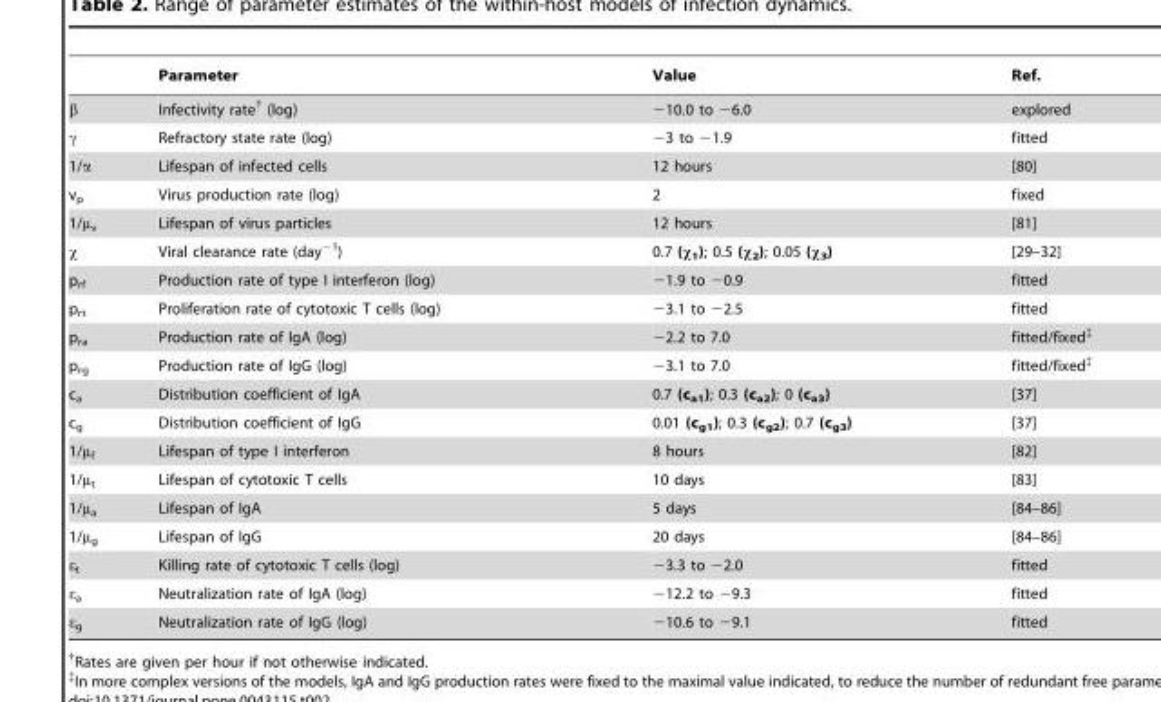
<table><thead><tr><td></td><td>Parameter</td><td>Value</td><td>Ref.</td></tr></thead><tbody><tr><td>β</td><td>Infectivity rate† (log)</td><td>−10.0 to −6.0</td><td>explored</td></tr><tr><td>γ</td><td>Refractory state rate (log)</td><td>−3 to −1.9</td><td>fitted</td></tr><tr><td>1/α</td><td>Lifespan of infected cells</td><td>12 hours</td><td>[80]</td></tr><tr><td>v<sub>p</sub></td><td>Virus production rate (log)</td><td>2</td><td>fixed</td></tr><tr><td>1/µ<sub>v</sub></td><td>Lifespan of virus particles</td><td>12 hours</td><td>[81]</td></tr><tr><td>κ</td><td>Viral clearance rate (day<sup>−1</sup>)</td><td>0.7 (χ<sub>1</sub>); 0.5 (χ<sub>2</sub>); 0.05 (χ<sub>3</sub>)</td><td>[29–32]</td></tr><tr><td>p<sub>rf</sub></td><td>Production rate of type I interferon (log)</td><td>−1.9 to −0.9</td><td>fitted</td></tr><tr><td>p<sub>rt</sub></td><td>Proliferation rate of cytotoxic T cells (log)</td><td>−3.1 to −2.5</td><td>fitted</td></tr><tr><td>p<sub>ra</sub></td><td>Production rate of IgA (log)</td><td>−2.2 to 7.0</td><td>fitted/fixed‡</td></tr><tr><td>p<sub>rg</sub></td><td>Production rate of IgG (log)</td><td>−3.1 to 7.0</td><td>fitted/fixed‡</td></tr><tr><td>c<sub>a</sub></td><td>Distribution coefficient of IgA</td><td>0.7 (c<sub>a1</sub>); 0.3 (c<sub>a2</sub>); 0 (c<sub>a3</sub>)</td><td>[37]</td></tr><tr><td>c<sub>g</sub></td><td>Distribution coefficient of IgG</td><td>0.01 (c<sub>g1</sub>); 0.3 (c<sub>g2</sub>); 0.7 (c<sub>g3</sub>)</td><td>[37]</td></tr><tr><td>1/µ<sub>f</sub></td><td>Lifespan of type I interferon</td><td>8 hours</td><td>[82]</td></tr><tr><td>1/µ<sub>t</sub></td><td>Lifespan of cytotoxic T cells</td><td>10 days</td><td>[83]</td></tr><tr><td>1/µ<sub>a</sub></td><td>Lifespan of IgA</td><td>5 days</td><td>[84–86]</td></tr><tr><td>1/µ<sub>g</sub></td><td>Lifespan of IgG</td><td>20 days</td><td>[84–86]</td></tr><tr><td>ε<sub>t</sub></td><td>Killing rate of cytotoxic T cells (log)</td><td>−3.3 to −2.0</td><td>fitted</td></tr><tr><td>ε<sub>a</sub></td><td>Neutralization rate of IgA (log)</td><td>−12.2 to −9.3</td><td>fitted</td></tr><tr><td>ε<sub>g</sub></td><td>Neutralization rate of IgG (log)</td><td>−10.6 to −9.1</td><td>fitted</td></tr></tbody></table>